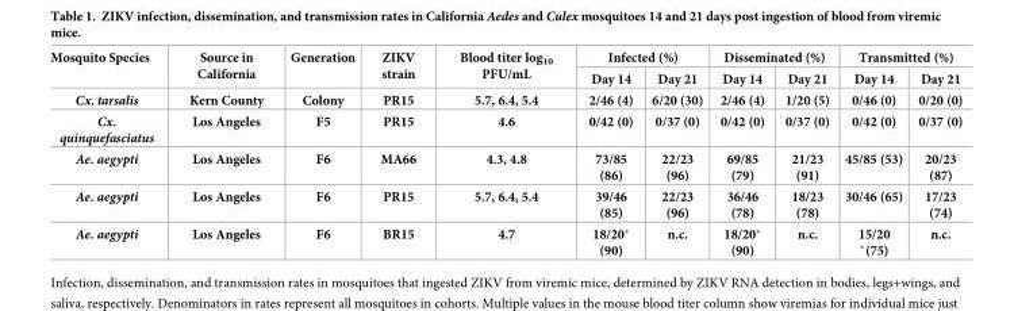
<table><thead><tr><td rowspan="2">Mosquito Species</td><td rowspan="2">Source in California</td><td rowspan="2">Generation</td><td rowspan="2">ZIKV strain</td><td rowspan="2">Blood titer log<sub>10</sub> PFU/mL</td><td colspan="2">Infected (%)</td><td colspan="2">Disseminated (%)</td><td colspan="2">Transmitted (%)</td></tr><tr><td>Day 14</td><td>Day 21</td><td>Day 14</td><td>Day 21</td><td>Day 14</td><td>Day 21</td></tr></thead><tbody><tr><td>Cx. tarsalis</td><td>Kern County</td><td>Colony</td><td>PR15</td><td>5.7, 6.4, 5.4</td><td>2/46 (4)</td><td>6/20 (30)</td><td>2/46 (4)</td><td>1/20 (5)</td><td>0/46 (0)</td><td>0/20 (0)</td></tr><tr><td>Cx. quinquefasciatus</td><td>Los Angeles</td><td>F5</td><td>PR15</td><td>4.6</td><td>0/42 (0)</td><td>0/37 (0)</td><td>0/42 (0)</td><td>0/37 (0)</td><td>0/42 (0)</td><td>0/37 (0)</td></tr><tr><td>Ae. aegypti</td><td>Los Angeles</td><td>F6</td><td>MA66</td><td>4.3, 4.8</td><td>73/85 (86)</td><td>22/23 (96)</td><td>69/85 (79)</td><td>21/23 (91)</td><td>45/85 (53)</td><td>20/23 (87)</td></tr><tr><td>Ae. aegypti</td><td>Los Angeles</td><td>F6</td><td>PR15</td><td>5.7, 6.4, 5.4</td><td>39/46 (85)</td><td>22/23 (96)</td><td>36/46 (78)</td><td>18/23 (78)</td><td>30/46 (65)</td><td>17/23 (74)</td></tr><tr><td>Ae. aegypti</td><td>Los Angeles</td><td>F6</td><td>BR15</td><td>4.7</td><td>18/20* (90)</td><td>n.c.</td><td>18/20* (90)</td><td>n.c.</td><td>15/20 *(75)</td><td>n.c.</td></tr></tbody></table>